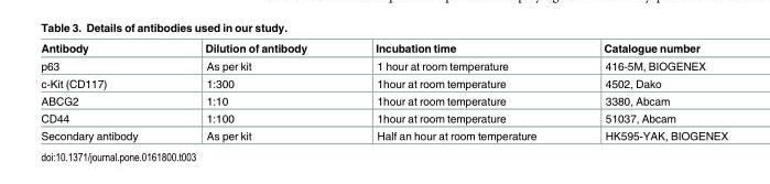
<table><thead><tr><td>Antibody</td><td>Dilution of antibody</td><td>Incubation time</td><td>Catalogue number</td></tr></thead><tbody><tr><td>p63</td><td>As per kit</td><td>1 hour at room temperature</td><td>416-5M, BIOGENEX</td></tr><tr><td>c-Kit (CD117)</td><td>1:300</td><td>1hour at room temperature</td><td>4502, Dako</td></tr><tr><td>ABCG2</td><td>1:10</td><td>1hour at room temperature</td><td>3380, Abcam</td></tr><tr><td>CD44</td><td>1:100</td><td>1hour at room temperature</td><td>51037, Abcam</td></tr><tr><td>Secondary antibody</td><td>As per kit</td><td>Half an hour at room temperature</td><td>HK595-YAK, BIOGENEX</td></tr></tbody></table>